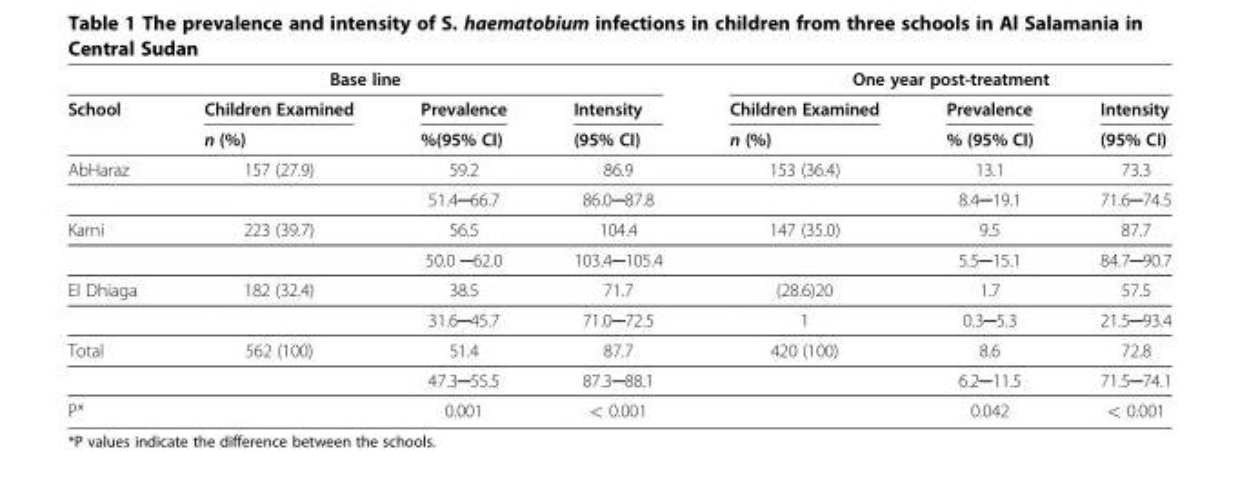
<table><thead><tr><td colspan="4">Base line</td><td colspan="3">One year post-treatment</td></tr><tr><td rowspan="2">School</td><td rowspan="2">Children Examined n (%)</td><td rowspan="2">Prevalence %(95% CI)</td><td rowspan="2">Intensity (95% CI)</td><td rowspan="2">Children Examined n (%)</td><td rowspan="2">Prevalence % (95% CI)</td><td rowspan="2">Intensity (95% CI)</td></tr><tr></tr></thead><tbody><tr><td rowspan="2">AbHaraz</td><td>157 (27.9)</td><td>59.2</td><td>86.9</td><td>153 (36.4)</td><td>13.1</td><td>73.3</td></tr><tr><td></td><td>51.4─66.7</td><td>86.0─87.8</td><td></td><td>8.4─19.1</td><td>71.6─74.5</td></tr><tr><td rowspan="2">Karni</td><td>223 (39.7)</td><td>56.5</td><td>104.4</td><td>147 (35.0)</td><td>9.5</td><td>87.7</td></tr><tr><td></td><td>50.0 ─62.0</td><td>103.4─105.4</td><td></td><td>5.5─15.1</td><td>84.7─90.7</td></tr><tr><td rowspan="2">El Dhiaga</td><td>182 (32.4)</td><td>38.5</td><td>71.7</td><td>(28.6)20</td><td>1.7</td><td>57.5</td></tr><tr><td></td><td>31.6─45.7</td><td>71.0─72.5</td><td>1</td><td>0.3─5.3</td><td>21.5─93.4</td></tr><tr><td rowspan="2">Total</td><td>562 (100)</td><td>51.4</td><td>87.7</td><td>420 (100)</td><td>8.6</td><td>72.8</td></tr><tr><td></td><td>47.3─55.5</td><td>87.3─88.1</td><td></td><td>6.2─11.5</td><td>71.5─74.1</td></tr><tr><td>P*</td><td></td><td>0.001</td><td>&lt; 0.001</td><td></td><td>0.042</td><td>&lt; 0.001</td></tr></tbody></table>